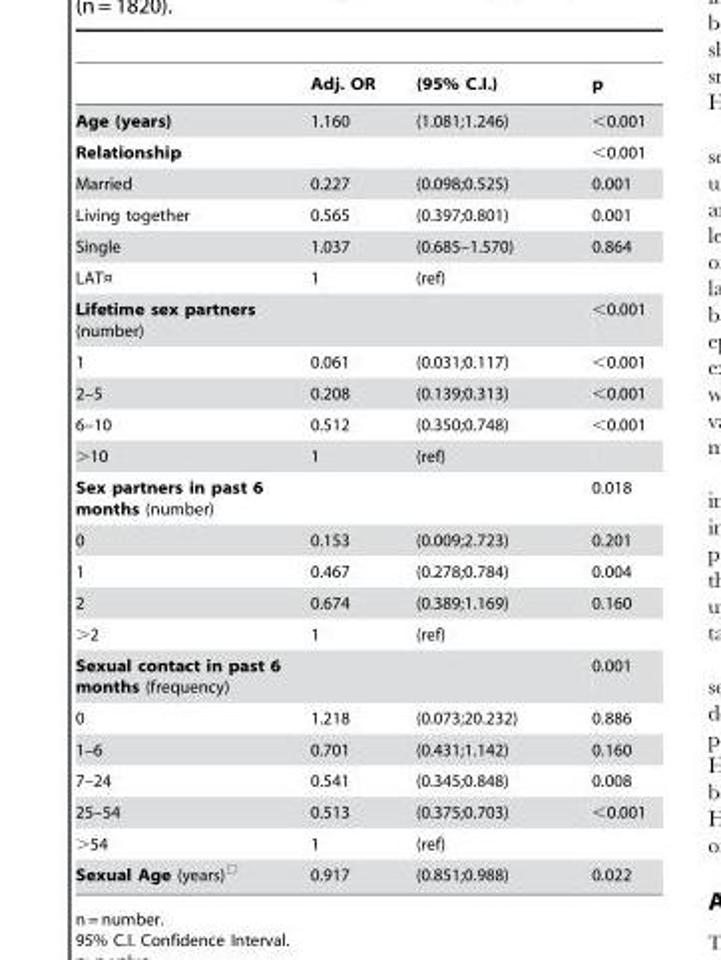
<table><thead><tr><td></td><td>Adj. OR</td><td>(95% C.I.)</td><td>p</td></tr></thead><tbody><tr><td>Age (years)</td><td>1.160</td><td>(1.081;1.246)</td><td>&lt;0.001</td></tr><tr><td>Relationship</td><td></td><td></td><td>&lt;0.001</td></tr><tr><td>Married</td><td>0.227</td><td>(0.098;0.525)</td><td>0.001</td></tr><tr><td>Living together</td><td>0.565</td><td>(0.397;0.801)</td><td>0.001</td></tr><tr><td>Single</td><td>1.037</td><td>(0.685–1.570)</td><td>0.864</td></tr><tr><td>LAT¤</td><td>1</td><td>(ref)</td><td></td></tr><tr><td>Lifetime sex partners (number)</td><td></td><td></td><td>&lt;0.001</td></tr><tr><td>1</td><td>0.061</td><td>(0.031;0.117)</td><td>&lt;0.001</td></tr><tr><td>2–5</td><td>0.208</td><td>(0.139;0.313)</td><td>&lt;0.001</td></tr><tr><td>6–10</td><td>0.512</td><td>(0.350;0.748)</td><td>&lt;0.001</td></tr><tr><td>&gt;10</td><td>1</td><td>(ref)</td><td></td></tr><tr><td>Sex partners in past 6 months (number)</td><td></td><td></td><td>0.018</td></tr><tr><td>0</td><td>0.153</td><td>(0.009;2.723)</td><td>0.201</td></tr><tr><td>1</td><td>0.467</td><td>(0.278;0.784)</td><td>0.004</td></tr><tr><td>2</td><td>0.674</td><td>(0.389;1.169)</td><td>0.160</td></tr><tr><td>&gt;2</td><td>1</td><td>(ref)</td><td></td></tr><tr><td>Sexual contact in past 6 months (frequency)</td><td></td><td></td><td>0.001</td></tr><tr><td>0</td><td>1.218</td><td>(0.073;20.232)</td><td>0.886</td></tr><tr><td>1–6</td><td>0.701</td><td>(0.431;1.142)</td><td>0.160</td></tr><tr><td>7–24</td><td>0.541</td><td>(0.345;0.848)</td><td>0.008</td></tr><tr><td>25–54</td><td>0.513</td><td>(0.375;0.703)</td><td>&lt;0.001</td></tr><tr><td>&gt;54</td><td>1</td><td>(ref)</td><td></td></tr><tr><td>Sexual Age (years)□</td><td>0.917</td><td>(0.851;0.988)</td><td>0.022</td></tr></tbody></table>